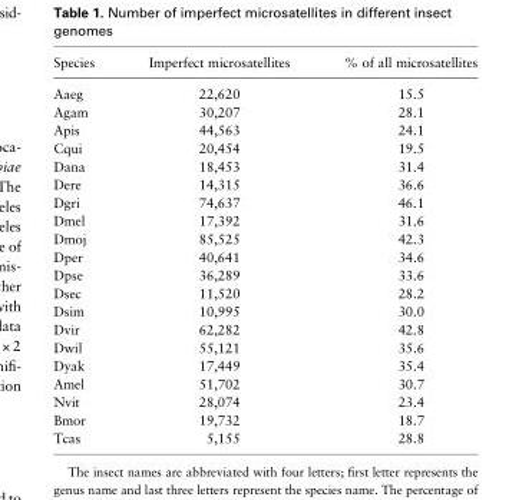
<table><thead><tr><td>Species</td><td>Imperfect microsatellites</td><td>% of all microsatellites</td></tr></thead><tbody><tr><td>Aaeg</td><td>22,620</td><td>15.5</td></tr><tr><td>Agam</td><td>30,207</td><td>28.1</td></tr><tr><td>Apis</td><td>44,563</td><td>24.1</td></tr><tr><td>Cqui</td><td>20,454</td><td>19.5</td></tr><tr><td>Dana</td><td>18,453</td><td>31.4</td></tr><tr><td>Dere</td><td>14,315</td><td>36.6</td></tr><tr><td>Dgri</td><td>74,637</td><td>46.1</td></tr><tr><td>Dmel</td><td>17,392</td><td>31.6</td></tr><tr><td>Dmoj</td><td>85,525</td><td>42.3</td></tr><tr><td>Dper</td><td>40,641</td><td>34.6</td></tr><tr><td>Dpse</td><td>36,289</td><td>33.6</td></tr><tr><td>Dsec</td><td>11,520</td><td>28.2</td></tr><tr><td>Dsim</td><td>10,995</td><td>30.0</td></tr><tr><td>Dvir</td><td>62,282</td><td>42.8</td></tr><tr><td>Dwil</td><td>55,121</td><td>35.6</td></tr><tr><td>Dyak</td><td>17,449</td><td>35.4</td></tr><tr><td>Amel</td><td>51,702</td><td>30.7</td></tr><tr><td>Nvit</td><td>28,074</td><td>23.4</td></tr><tr><td>Bmor</td><td>19,732</td><td>18.7</td></tr><tr><td>Tcas</td><td>5,155</td><td>28.8</td></tr></tbody></table>